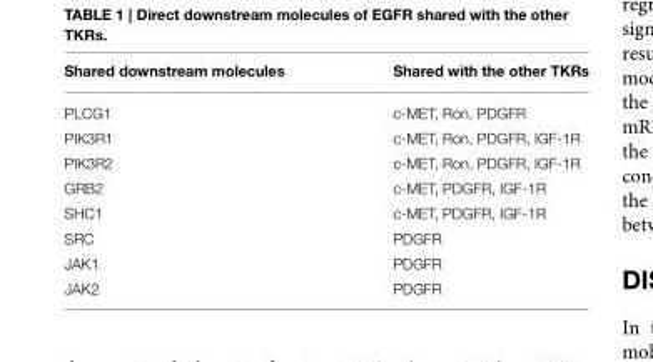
<table><thead><tr><td>Shared downstream molecules</td><td>Shared with the other TKRs</td></tr></thead><tbody><tr><td>PLCG1</td><td>c-MET, Ron, PDGFR</td></tr><tr><td>PIK3R1</td><td>c-MET, Ron, PDGFR, IGF-1R</td></tr><tr><td>PIK3R2</td><td>c-MET, Ron, PDGFR, IGF-1R</td></tr><tr><td>GRB2</td><td>c-MET, PDGFR, IGF-1R</td></tr><tr><td>SHC1</td><td>c-MET, PDGFR, IGF-1R</td></tr><tr><td>SRC</td><td>PDGFR</td></tr><tr><td>JAK1</td><td>PDGFR</td></tr><tr><td>JAK2</td><td>PDGFR</td></tr></tbody></table>